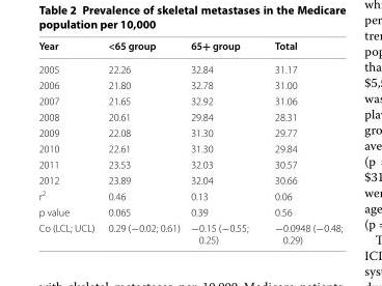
<table><thead><tr><td>Year</td><td>&lt;65 group</td><td>65+ group</td><td>Total</td></tr></thead><tbody><tr><td>2005</td><td>22.26</td><td>32.84</td><td>31.17</td></tr><tr><td>2006</td><td>21.80</td><td>32.78</td><td>31.00</td></tr><tr><td>2007</td><td>21.65</td><td>32.92</td><td>31.06</td></tr><tr><td>2008</td><td>20.61</td><td>29.84</td><td>28.31</td></tr><tr><td>2009</td><td>22.08</td><td>31.30</td><td>29.77</td></tr><tr><td>2010</td><td>22.61</td><td>31.30</td><td>29.84</td></tr><tr><td>2011</td><td>23.53</td><td>32.03</td><td>30.57</td></tr><tr><td>2012</td><td>23.89</td><td>32.04</td><td>30.66</td></tr><tr><td>r<sup>2</sup></td><td>0.46</td><td>0.13</td><td>0.06</td></tr><tr><td>p value</td><td>0.065</td><td>0.39</td><td>0.56</td></tr><tr><td>Co (LCL; UCL)</td><td>0.29 (−0.02; 0.61)</td><td>−0.15 (−0.55; 0.25)</td><td>−0.0948 (−0.48; 0.29)</td></tr></tbody></table>